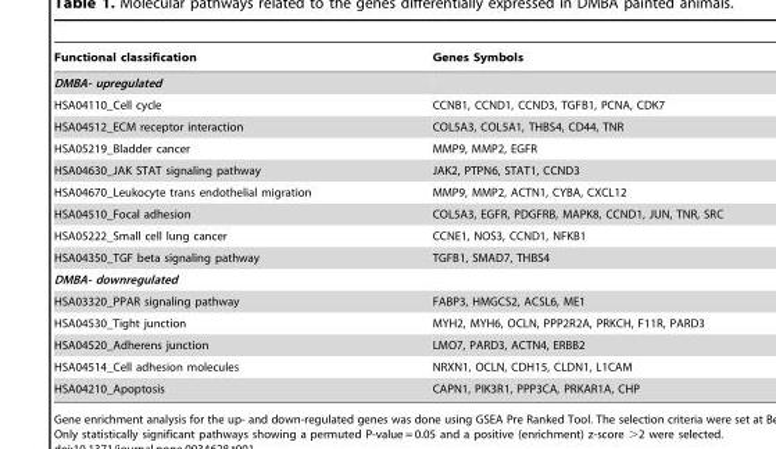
<table><thead><tr><td>Functional classification</td><td>Genes Symbols</td></tr></thead><tbody><tr><td colspan="2">DMBA- upregulated</td></tr><tr><td>HSA04110_Cell cycle</td><td>CCNB1, CCND1, CCND3, TGFB1, PCNA, CDK7</td></tr><tr><td>HSA04512_ECM receptor interaction</td><td>COL5A3, COL5A1, THBS4, CD44, TNR</td></tr><tr><td>HSA05219_Bladder cancer</td><td>MMP9, MMP2, EGFR</td></tr><tr><td>HSA04630_JAK STAT signaling pathway</td><td>JAK2, PTPN6, STAT1, CCND3</td></tr><tr><td>HSA04670_Leukocyte trans endothelial migration</td><td>MMP9, MMP2, ACTN1, CYBA, CXCL12</td></tr><tr><td>HSA04510_Focal adhesion</td><td>COL5A3, EGFR, PDGFRB, MAPK8, CCND1, JUN, TNR, SRC</td></tr><tr><td>HSA05222_Small cell lung cancer</td><td>CCNE1, NOS3, CCND1, NFKB1</td></tr><tr><td>HSA04350_TGF beta signaling pathway</td><td>TGFB1, SMAD7, THBS4</td></tr><tr><td colspan="2">DMBA- downregulated</td></tr><tr><td>HSA03320_PPAR signaling pathway</td><td>FABP3, HMGCS2, ACSL6, ME1</td></tr><tr><td>HSA04530_Tight junction</td><td>MYH2, MYH6, OCLN, PPP2R2A, PRKCH, F11R, PARD3</td></tr><tr><td>HSA04520_Adherens junction</td><td>LMO7, PARD3, ACTN4, ERBB2</td></tr><tr><td>HSA04514_Cell adhesion molecules</td><td>NRXN1, OCLN, CDH15, CLDN1, L1CAM</td></tr><tr><td>HSA04210_Apoptosis</td><td>CAPN1, PIK3R1, PPP3CA, PRKAR1A, CHP</td></tr></tbody></table>